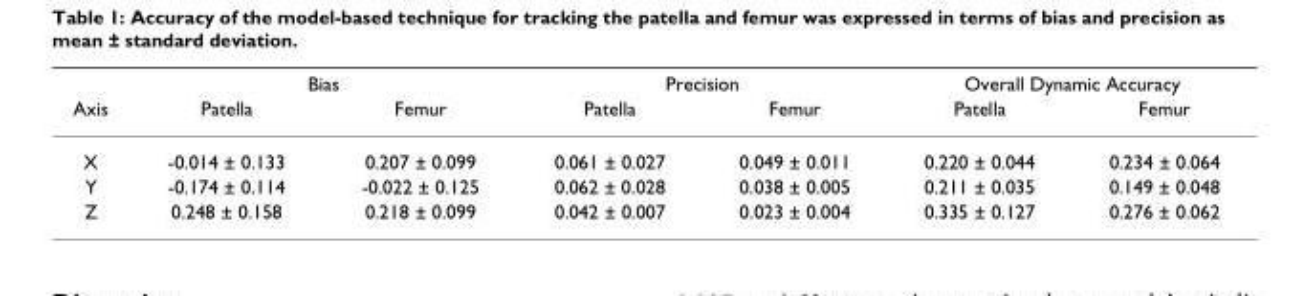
<table><thead><tr><td rowspan="2">Axis</td><td colspan="2">Bias</td><td colspan="2">Precision</td><td colspan="2">Overall Dynamic Accuracy</td></tr><tr><td>Patella</td><td>Femur</td><td>Patella</td><td>Femur</td><td>Patella</td><td>Femur</td></tr></thead><tbody><tr><td>X</td><td>-0.014 ± 0.133</td><td>0.207 ± 0.099</td><td>0.061 ± 0.027</td><td>0.049 ± 0.011</td><td>0.220 ± 0.044</td><td>0.234 ± 0.064</td></tr><tr><td>Y</td><td>-0.174 ± 0.114</td><td>-0.022 ± 0.125</td><td>0.062 ± 0.028</td><td>0.038 ± 0.005</td><td>0.211 ± 0.035</td><td>0.149 ± 0.048</td></tr><tr><td>Z</td><td>0.248 ± 0.158</td><td>0.218 ± 0.099</td><td>0.042 ± 0.007</td><td>0.023 ± 0.004</td><td>0.335 ± 0.127</td><td>0.276 ± 0.062</td></tr></tbody></table>